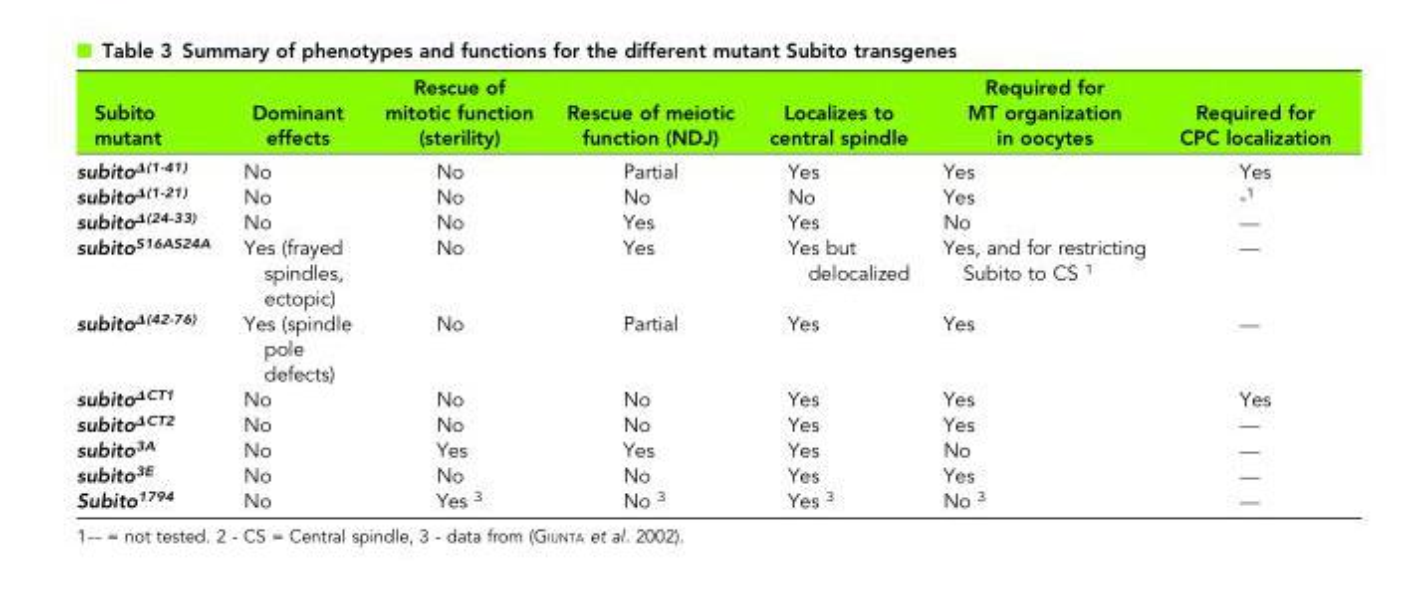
<table><thead><tr><td>Subito mutant</td><td>Dominant effects</td><td>Rescue of mitotic function (sterility)</td><td>Rescue of meiotic function (NDJ)</td><td>Localizes to central spindle</td><td>Required for MT organization in oocytes</td><td>Required for CPC localization</td></tr></thead><tbody><tr><td>subito<sup>Δ(1-41)</sup></td><td>No</td><td>No</td><td>Partial</td><td>Yes</td><td>Yes</td><td>Yes</td></tr><tr><td>subito<sup>Δ(1-21)</sup></td><td>No</td><td>No</td><td>No</td><td>No</td><td>Yes</td><td>-<sup>1</sup></td></tr><tr><td>subito<sup>Δ(24-33)</sup></td><td>No</td><td>No</td><td>Yes</td><td>Yes</td><td>No</td><td>—</td></tr><tr><td>subito<sup>S16AS24A</sup></td><td>Yes (frayed spindles, ectopic)</td><td>No</td><td>Yes</td><td>Yes but delocalized</td><td>Yes, and for restricting Subito to CS <sup>1</sup></td><td>—</td></tr><tr><td>subito<sup>Δ(42-76)</sup></td><td>Yes (spindle pole defects)</td><td>No</td><td>Partial</td><td>Yes</td><td>Yes</td><td>—</td></tr><tr><td>subito<sup>ΔCT1</sup></td><td>No</td><td>No</td><td>No</td><td>Yes</td><td>Yes</td><td>Yes</td></tr><tr><td>subito<sup>ΔCT2</sup></td><td>No</td><td>No</td><td>No</td><td>Yes</td><td>Yes</td><td>—</td></tr><tr><td>subito<sup>3A</sup></td><td>No</td><td>Yes</td><td>Yes</td><td>Yes</td><td>No</td><td>—</td></tr><tr><td>subito<sup>3E</sup></td><td>No</td><td>No</td><td>No</td><td>Yes</td><td>Yes</td><td>—</td></tr><tr><td>Subito<sup>1794</sup></td><td>No</td><td>Yes <sup>3</sup></td><td>No <sup>3</sup></td><td>Yes <sup>3</sup></td><td>No <sup>3</sup></td><td>—</td></tr></tbody></table>